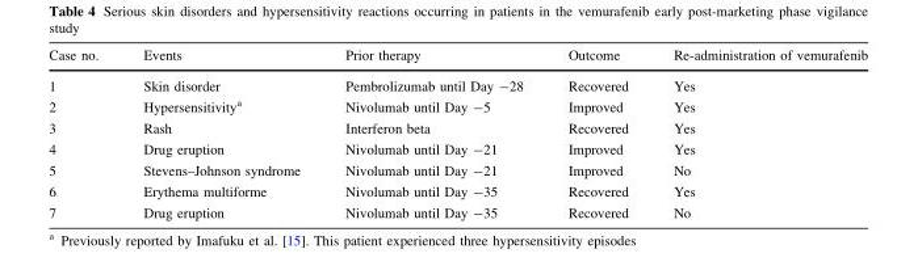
<table><thead><tr><td>Case no.</td><td>Events</td><td>Prior therapy</td><td>Outcome</td><td>Re-administration of vemurafenib</td></tr></thead><tbody><tr><td>1</td><td>Skin disorder</td><td>Pembrolizumab until Day -28</td><td>Recovered</td><td>Yes</td></tr><tr><td>2</td><td>Hypersensitivity<sup>a</sup></td><td>Nivolumab until Day -5</td><td>Improved</td><td>Yes</td></tr><tr><td>3</td><td>Rash</td><td>Interferon beta</td><td>Recovered</td><td>Yes</td></tr><tr><td>4</td><td>Drug eruption</td><td>Nivolumab until Day -21</td><td>Improved</td><td>Yes</td></tr><tr><td>5</td><td>Stevens–Johnson syndrome</td><td>Nivolumab until Day -21</td><td>Improved</td><td>No</td></tr><tr><td>6</td><td>Erythema multiforme</td><td>Nivolumab until Day -35</td><td>Recovered</td><td>Yes</td></tr><tr><td>7</td><td>Drug eruption</td><td>Nivolumab until Day -35</td><td>Recovered</td><td>No</td></tr></tbody></table>